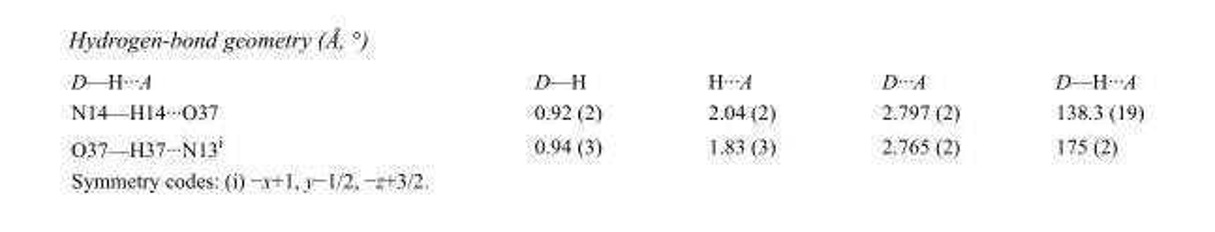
<table><tbody><tr><td>D—H···A</td><td>D—H</td><td>H···A</td><td>D···A</td><td>D—H···A</td></tr><tr><td>N14—H14···O37</td><td>0.92 (2)</td><td>2.04 (2)</td><td>2.797 (2)</td><td>138.3 (19)</td></tr><tr><td>O37—H37···N13<sup>i</sup></td><td>0.94 (3)</td><td>1.83 (3)</td><td>2.765 (2)</td><td>175 (2)</td></tr></tbody></table>